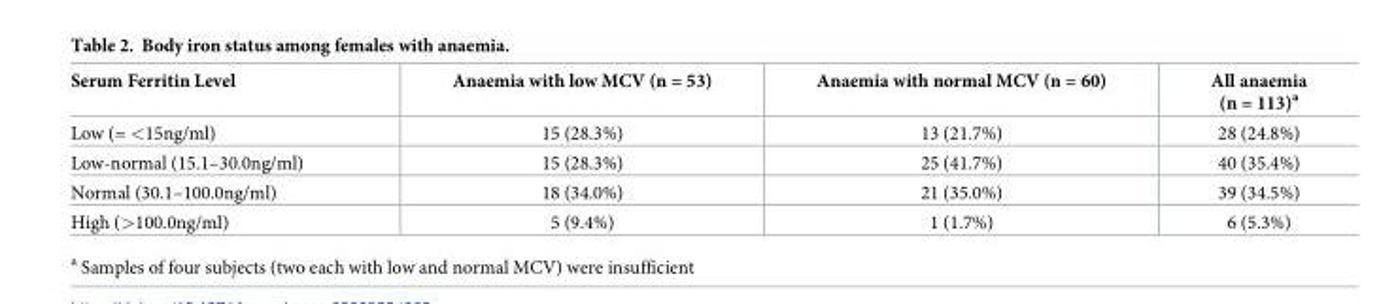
<table><thead><tr><td>Serum Ferritin Level</td><td>Anaemia with low MCV (n = 53)</td><td>Anaemia with normal MCV (n = 60)</td><td>All anaemia (n = 113)<sup>a</sup></td></tr></thead><tbody><tr><td>Low (= &lt;15ng/ml)</td><td>15 (28.3%)</td><td>13 (21.7%)</td><td>28 (24.8%)</td></tr><tr><td>Low-normal (15.1–30.0ng/ml)</td><td>15 (28.3%)</td><td>25 (41.7%)</td><td>40 (35.4%)</td></tr><tr><td>Normal (30.1–100.0ng/ml)</td><td>18 (34.0%)</td><td>21 (35.0%)</td><td>39 (34.5%)</td></tr><tr><td>High (&gt;100.0ng/ml)</td><td>5 (9.4%)</td><td>1 (1.7%)</td><td>6 (5.3%)</td></tr></tbody></table>